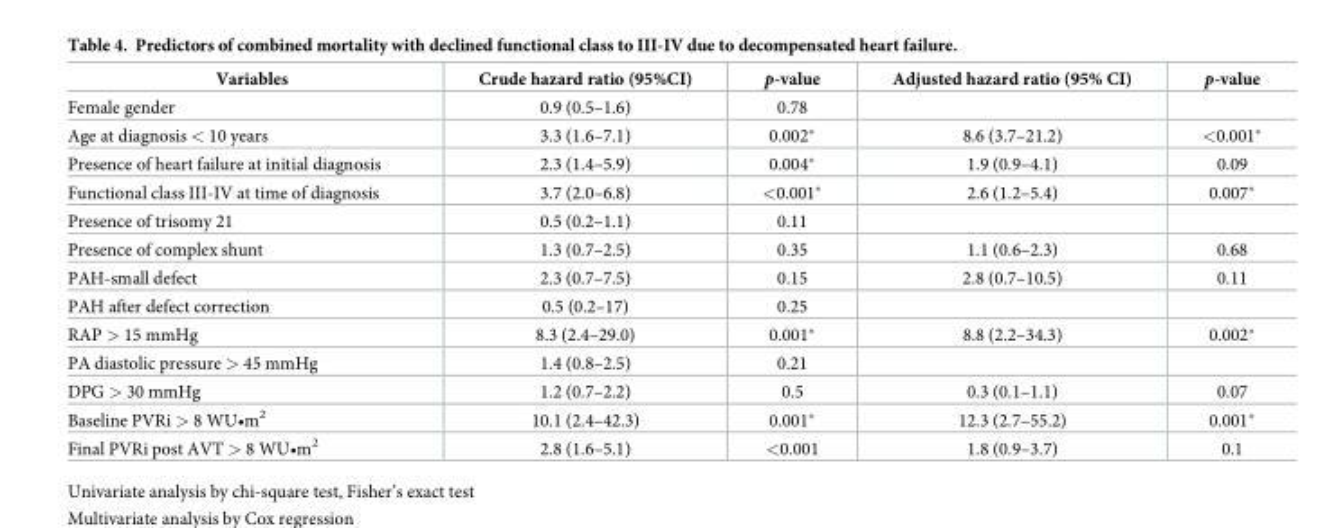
<table><thead><tr><td>Variables</td><td>Crude hazard ratio (95%CI)</td><td>p-value</td><td>Adjusted hazard ratio (95% CI)</td><td>p-value</td></tr></thead><tbody><tr><td>Female gender</td><td>0.9 (0.5–1.6)</td><td>0.78</td><td></td><td></td></tr><tr><td>Age at diagnosis &lt; 10 years</td><td>3.3 (1.6–7.1)</td><td>0.002*</td><td>8.6 (3.7–21.2)</td><td>&lt;0.001*</td></tr><tr><td>Presence of heart failure at initial diagnosis</td><td>2.3 (1.4–5.9)</td><td>0.004*</td><td>1.9 (0.9–4.1)</td><td>0.09</td></tr><tr><td>Functional class III-IV at time of diagnosis</td><td>3.7 (2.0–6.8)</td><td>&lt;0.001*</td><td>2.6 (1.2–5.4)</td><td>0.007*</td></tr><tr><td>Presence of trisomy 21</td><td>0.5 (0.2–1.1)</td><td>0.11</td><td></td><td></td></tr><tr><td>Presence of complex shunt</td><td>1.3 (0.7–2.5)</td><td>0.35</td><td>1.1 (0.6–2.3)</td><td>0.68</td></tr><tr><td>PAH-small defect</td><td>2.3 (0.7–7.5)</td><td>0.15</td><td>2.8 (0.7–10.5)</td><td>0.11</td></tr><tr><td>PAH after defect correction</td><td>0.5 (0.2–17)</td><td>0.25</td><td></td><td></td></tr><tr><td>RAP &gt; 15 mmHg</td><td>8.3 (2.4–29.0)</td><td>0.001*</td><td>8.8 (2.2–34.3)</td><td>0.002*</td></tr><tr><td>PA diastolic pressure &gt; 45 mmHg</td><td>1.4 (0.8–2.5)</td><td>0.21</td><td></td><td></td></tr><tr><td>DPG &gt; 30 mmHg</td><td>1.2 (0.7–2.2)</td><td>0.5</td><td>0.3 (0.1–1.1)</td><td>0.07</td></tr><tr><td>Baseline PVRi &gt; 8 WU•m<sup>2</sup></td><td>10.1 (2.4–42.3)</td><td>0.001*</td><td>12.3 (2.7–55.2)</td><td>0.001*</td></tr><tr><td>Final PVRi post AVT &gt; 8 WU•m<sup>2</sup></td><td>2.8 (1.6–5.1)</td><td>&lt;0.001</td><td>1.8 (0.9–3.7)</td><td>0.1</td></tr></tbody></table>